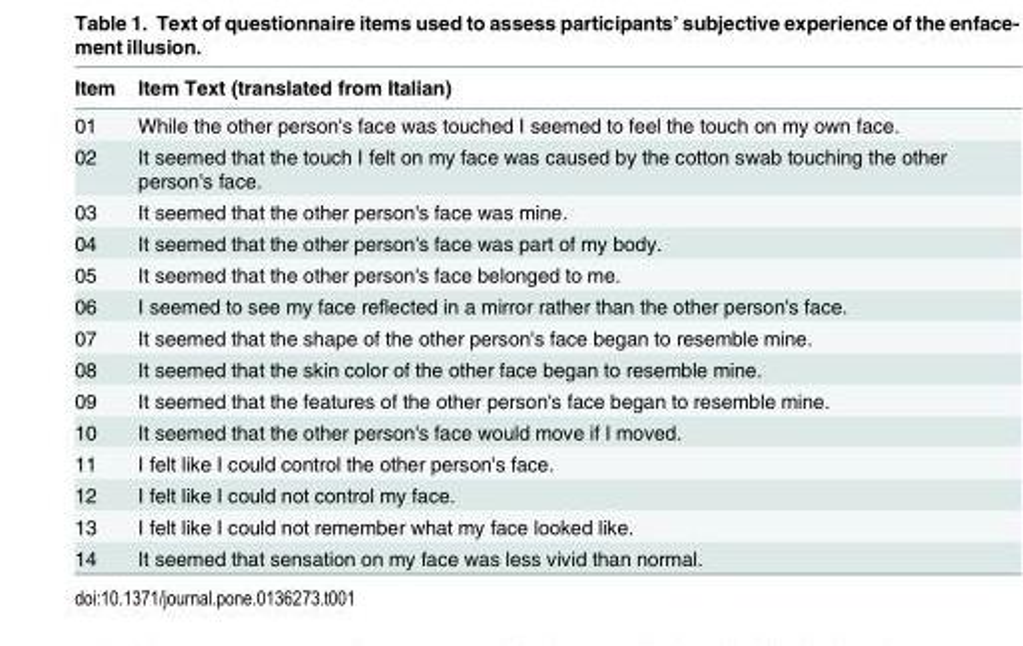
<table><thead><tr><td>Item</td><td>Item Text (translated from Italian)</td></tr></thead><tbody><tr><td>01</td><td>While the other person&#x27;s face was touched I seemed to feel the touch on my own face.</td></tr><tr><td>02</td><td>It seemed that the touch I felt on my face was caused by the cotton swab touching the other person&#x27;s face.</td></tr><tr><td>03</td><td>It seemed that the other person&#x27;s face was mine.</td></tr><tr><td>04</td><td>It seemed that the other person&#x27;s face was part of my body.</td></tr><tr><td>05</td><td>It seemed that the other person&#x27;s face belonged to me.</td></tr><tr><td>06</td><td>I seemed to see my face reflected in a mirror rather than the other person&#x27;s face.</td></tr><tr><td>07</td><td>It seemed that the shape of the other person&#x27;s face began to resemble mine.</td></tr><tr><td>08</td><td>It seemed that the skin color of the other face began to resemble mine.</td></tr><tr><td>09</td><td>It seemed that the features of the other person&#x27;s face began to resemble mine.</td></tr><tr><td>10</td><td>It seemed that the other person&#x27;s face would move if I moved.</td></tr><tr><td>11</td><td>I felt like I could control the other person&#x27;s face.</td></tr><tr><td>12</td><td>I felt like I could not control my face.</td></tr><tr><td>13</td><td>I felt like I could not remember what my face looked like.</td></tr><tr><td>14</td><td>It seemed that sensation on my face was less vivid than normal.</td></tr></tbody></table>